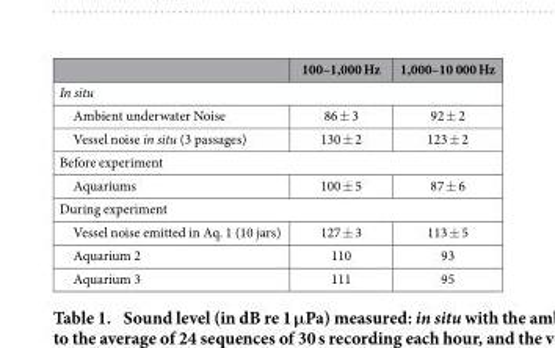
<table><thead><tr><td></td><td>100–1,000 Hz</td><td>1,000–10 000 Hz</td></tr></thead><tbody><tr><td colspan="3">In situ</td></tr><tr><td>Ambient underwater Noise</td><td>86 ± 3</td><td>92 ± 2</td></tr><tr><td>Vessel noise in situ (3 passages)</td><td>130 ± 2</td><td>123 ± 2</td></tr><tr><td colspan="3">Before experiment</td></tr><tr><td>Aquariums</td><td>100 ± 5</td><td>87 ± 6</td></tr><tr><td colspan="3">During experiment</td></tr><tr><td>Vessel noise emitted in Aq. 1 (10 jars)</td><td>127 ± 3</td><td>113 ± 5</td></tr><tr><td>Aquarium 2</td><td>110</td><td>93</td></tr><tr><td>Aquarium 3</td><td>111</td><td>95</td></tr></tbody></table>